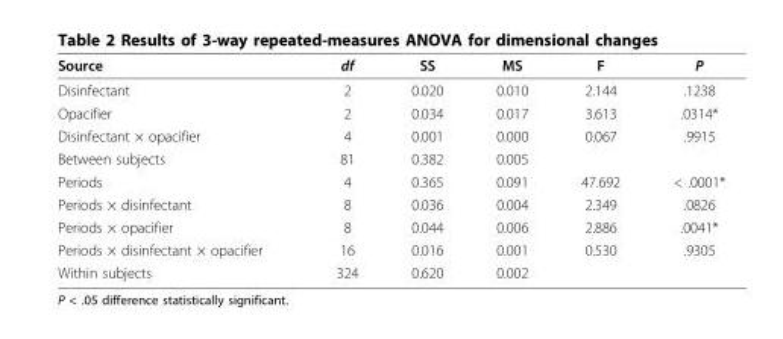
<table><thead><tr><td>Source</td><td>df</td><td>SS</td><td>MS</td><td>F</td><td>P</td></tr></thead><tbody><tr><td>Disinfectant</td><td>2</td><td>0.020</td><td>0.010</td><td>2.144</td><td>.1238</td></tr><tr><td>Opacifier</td><td>2</td><td>0.034</td><td>0.017</td><td>3.613</td><td>.0314*</td></tr><tr><td>Disinfectant × opacifier</td><td>4</td><td>0.001</td><td>0.000</td><td>0.067</td><td>.9915</td></tr><tr><td>Between subjects</td><td>81</td><td>0.382</td><td>0.005</td><td></td><td></td></tr><tr><td>Periods</td><td>4</td><td>0.365</td><td>0.091</td><td>47.692</td><td>&lt; .0001*</td></tr><tr><td>Periods × disinfectant</td><td>8</td><td>0.036</td><td>0.004</td><td>2.349</td><td>.0826</td></tr><tr><td>Periods × opacifier</td><td>8</td><td>0.044</td><td>0.006</td><td>2.886</td><td>.0041*</td></tr><tr><td>Periods × disinfectant × opacifier</td><td>16</td><td>0.016</td><td>0.001</td><td>0.530</td><td>.9305</td></tr><tr><td>Within subjects</td><td>324</td><td>0.620</td><td>0.002</td><td></td><td></td></tr></tbody></table>